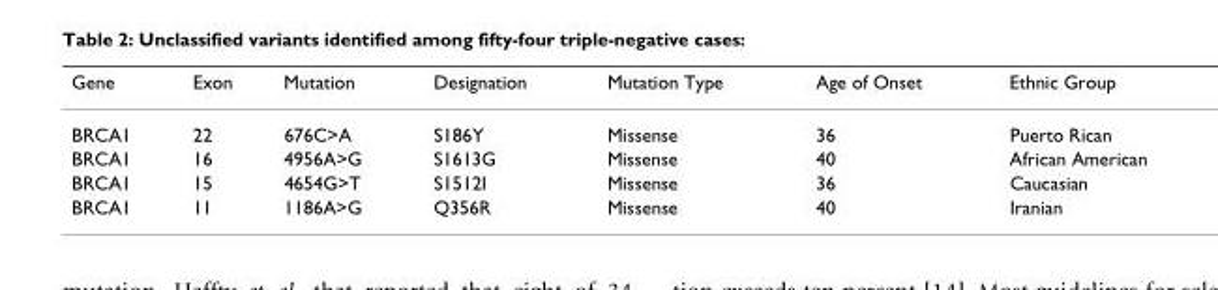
<table><thead><tr><td>Gene</td><td>Exon</td><td>Mutation</td><td>Designation</td><td>Mutation Type</td><td>Age of Onset</td><td>Ethnic Group</td></tr></thead><tbody><tr><td>BRCA1</td><td>22</td><td>676C&gt;A</td><td>S186Y</td><td>Missense</td><td>36</td><td>Puerto Rican</td></tr><tr><td>BRCA1</td><td>16</td><td>4956A&gt;G</td><td>S1613G</td><td>Missense</td><td>40</td><td>African American</td></tr><tr><td>BRCA1</td><td>15</td><td>4654G&gt;T</td><td>S1512I</td><td>Missense</td><td>36</td><td>Caucasian</td></tr><tr><td>BRCA1</td><td>11</td><td>1186A&gt;G</td><td>Q356R</td><td>Missense</td><td>40</td><td>Iranian</td></tr></tbody></table>